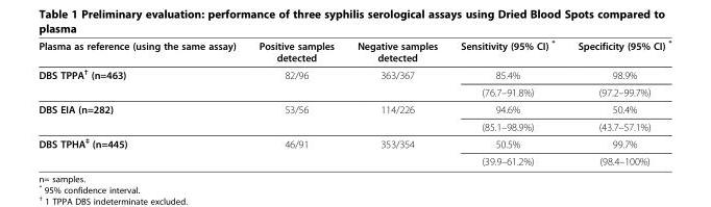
<table><thead><tr><td>Plasma as reference (using the same assay)</td><td>Positive samples detected</td><td>Negative samples detected</td><td>Sensitivity (95% CI) *</td><td>Specificity (95% CI) *</td></tr></thead><tbody><tr><td rowspan="2">DBS TPPA<sup>†</sup> (n=463)</td><td rowspan="2">82/96</td><td rowspan="2">363/367</td><td>85.4%</td><td>98.9%</td></tr><tr><td>(76.7–91.8%)</td><td>(97.2–99.7%)</td></tr><tr><td rowspan="2">DBS EIA (n=282)</td><td rowspan="2">53/56</td><td rowspan="2">114/226</td><td>94.6%</td><td>50.4%</td></tr><tr><td>(85.1–98.9%)</td><td>(43.7–57.1%)</td></tr><tr><td rowspan="2">DBS TPHA<sup>‡</sup> (n=445)</td><td rowspan="2">46/91</td><td rowspan="2">353/354</td><td>50.5%</td><td>99.7%</td></tr><tr><td>(39.9–61.2%)</td><td>(98.4–100%)</td></tr></tbody></table>